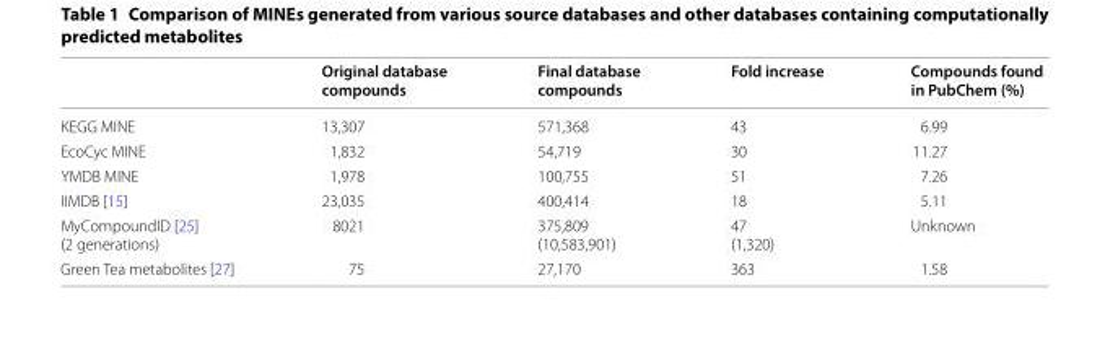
<table><thead><tr><td></td><td>Original database compounds</td><td>Final database compounds</td><td>Fold increase</td><td>Compounds found in PubChem (%)</td></tr></thead><tbody><tr><td>KEGG MINE</td><td>13,307</td><td>571,368</td><td>43</td><td>6.99</td></tr><tr><td>EcoCyc MINE</td><td>1,832</td><td>54,719</td><td>30</td><td>11.27</td></tr><tr><td>YMDB MINE</td><td>1,978</td><td>100,755</td><td>51</td><td>7.26</td></tr><tr><td>IIMDB [15]</td><td>23,035</td><td>400,414</td><td>18</td><td>5.11</td></tr><tr><td>MyCompoundID [25] (2 generations)</td><td>8021</td><td>375,809 (10,583,901)</td><td>47 (1,320)</td><td>Unknown</td></tr><tr><td>Green Tea metabolites [27]</td><td>75</td><td>27,170</td><td>363</td><td>1.58</td></tr></tbody></table>